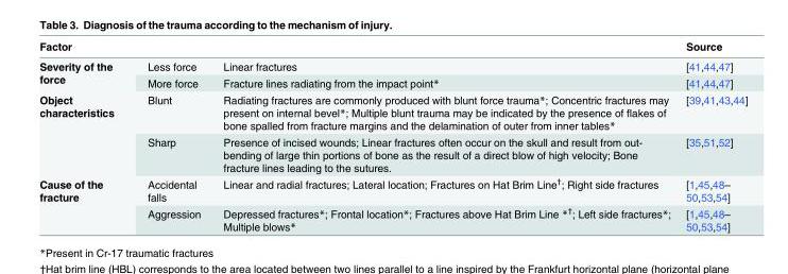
<table><thead><tr><td>Factor</td><td></td><td></td><td>Source</td></tr></thead><tbody><tr><td rowspan="2">Severity of the force</td><td>Less force</td><td>Linear fractures</td><td>[41,44,47]</td></tr><tr><td>More force</td><td>Fracture lines radiating from the impact point*</td><td>[41,44,47]</td></tr><tr><td rowspan="2">Object characteristics</td><td>Blunt</td><td>Radiating fractures are commonly produced with blunt force trauma*; Concentric fractures may present on internal bevel*; Multiple blunt trauma may be indicated by the presence of flakes of bone spalled from fracture margins and the delamination of outer from inner tables*</td><td>[39,41,43,44]</td></tr><tr><td>Sharp</td><td>Presence of incised wounds; Linear fractures often occur on the skull and result from out- bending of large thin portions of bone as the result of a direct blow of high velocity; Bone fracture lines leading to the sutures.</td><td>[35,51,52]</td></tr><tr><td rowspan="2">Cause of the fracture</td><td>Accidental falls</td><td>Linear and radial fractures; Lateral location; Fractures on Hat Brim Line<sup>†</sup>; Right side fractures</td><td>[1,45,48– 50,53,54]</td></tr><tr><td>Aggression</td><td>Depressed fractures*; Frontal location*; Fractures above Hat Brim Line *<sup>†</sup>; Left side fractures*; Multiple blows*</td><td>[1,45,48– 50,53,54]</td></tr></tbody></table>